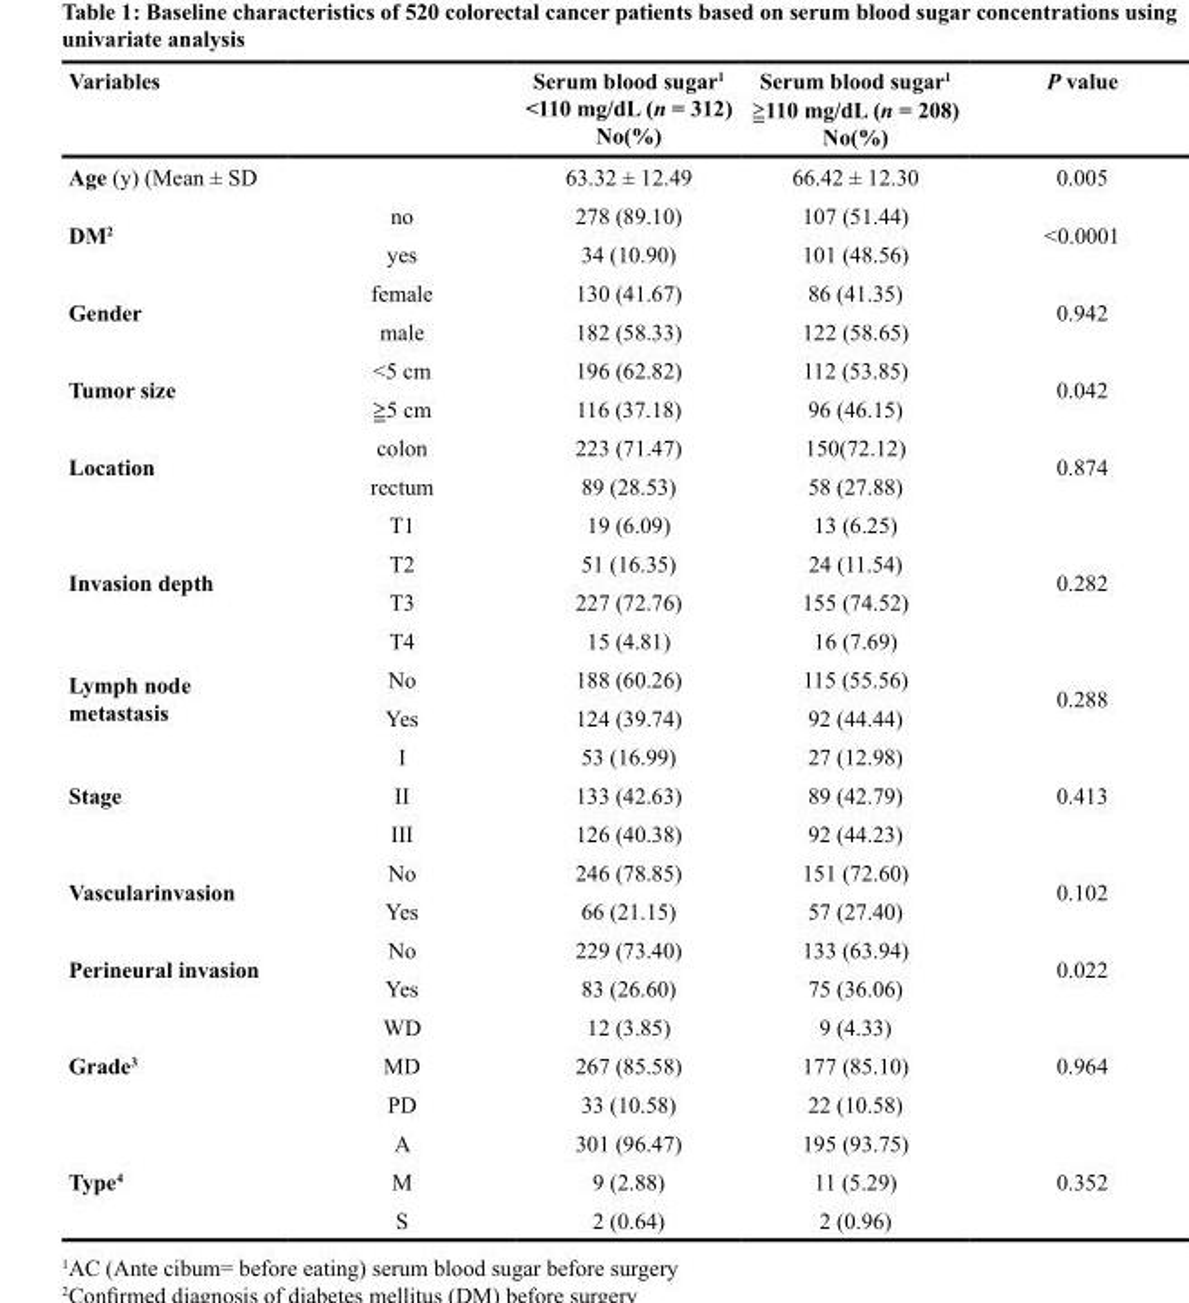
<table><thead><tr><td>Variables</td><td></td><td>Serum blood sugar<sup>1</sup> &lt;110 mg/dL (n = 312) No(%)</td><td>Serum blood sugar<sup>1</sup> ≧110 mg/dL (n = 208) No(%)</td><td>P value</td></tr></thead><tbody><tr><td>Age (y) (Mean ± SD</td><td></td><td>63.32 ± 12.49</td><td>66.42 ± 12.30</td><td>0.005</td></tr><tr><td rowspan="2">DM<sup>2</sup></td><td>no</td><td>278 (89.10)</td><td>107 (51.44)</td><td rowspan="2">&lt;0.0001</td></tr><tr><td>yes</td><td>34 (10.90)</td><td>101 (48.56)</td></tr><tr><td rowspan="2">Gender</td><td>female</td><td>130 (41.67)</td><td>86 (41.35)</td><td rowspan="2">0.942</td></tr><tr><td>male</td><td>182 (58.33)</td><td>122 (58.65)</td></tr><tr><td rowspan="2">Tumor size</td><td>&lt;5 cm</td><td>196 (62.82)</td><td>112 (53.85)</td><td rowspan="2">0.042</td></tr><tr><td>≧5 cm</td><td>116 (37.18)</td><td>96 (46.15)</td></tr><tr><td rowspan="2">Location</td><td>colon</td><td>223 (71.47)</td><td>150(72.12)</td><td rowspan="2">0.874</td></tr><tr><td>rectum</td><td>89 (28.53)</td><td>58 (27.88)</td></tr><tr><td rowspan="4">Invasion depth</td><td>T1</td><td>19 (6.09)</td><td>13 (6.25)</td><td rowspan="4">0.282</td></tr><tr><td>T2</td><td>51 (16.35)</td><td>24 (11.54)</td></tr><tr><td>T3</td><td>227 (72.76)</td><td>155 (74.52)</td></tr><tr><td>T4</td><td>15 (4.81)</td><td>16 (7.69)</td></tr><tr><td rowspan="2">Lymph node metastasis</td><td>No</td><td>188 (60.26)</td><td>115 (55.56)</td><td rowspan="2">0.288</td></tr><tr><td>Yes</td><td>124 (39.74)</td><td>92 (44.44)</td></tr><tr><td rowspan="3">Stage</td><td>I</td><td>53 (16.99)</td><td>27 (12.98)</td><td rowspan="3">0.413</td></tr><tr><td>II</td><td>133 (42.63)</td><td>89 (42.79)</td></tr><tr><td>III</td><td>126 (40.38)</td><td>92 (44.23)</td></tr><tr><td rowspan="2">Vascularinvasion</td><td>No</td><td>246 (78.85)</td><td>151 (72.60)</td><td rowspan="2">0.102</td></tr><tr><td>Yes</td><td>66 (21.15)</td><td>57 (27.40)</td></tr><tr><td rowspan="2">Perineural invasion</td><td>No</td><td>229 (73.40)</td><td>133 (63.94)</td><td rowspan="2">0.022</td></tr><tr><td>Yes</td><td>83 (26.60)</td><td>75 (36.06)</td></tr><tr><td rowspan="3">Grade<sup>3</sup></td><td>WD</td><td>12 (3.85)</td><td>9 (4.33)</td><td rowspan="3">0.964</td></tr><tr><td>MD</td><td>267 (85.58)</td><td>177 (85.10)</td></tr><tr><td>PD</td><td>33 (10.58)</td><td>22 (10.58)</td></tr><tr><td rowspan="3">Type<sup>4</sup></td><td>A</td><td>301 (96.47)</td><td>195 (93.75)</td><td rowspan="3">0.352</td></tr><tr><td>M</td><td>9 (2.88)</td><td>11 (5.29)</td></tr><tr><td>S</td><td>2 (0.64)</td><td>2 (0.96)</td></tr></tbody></table>